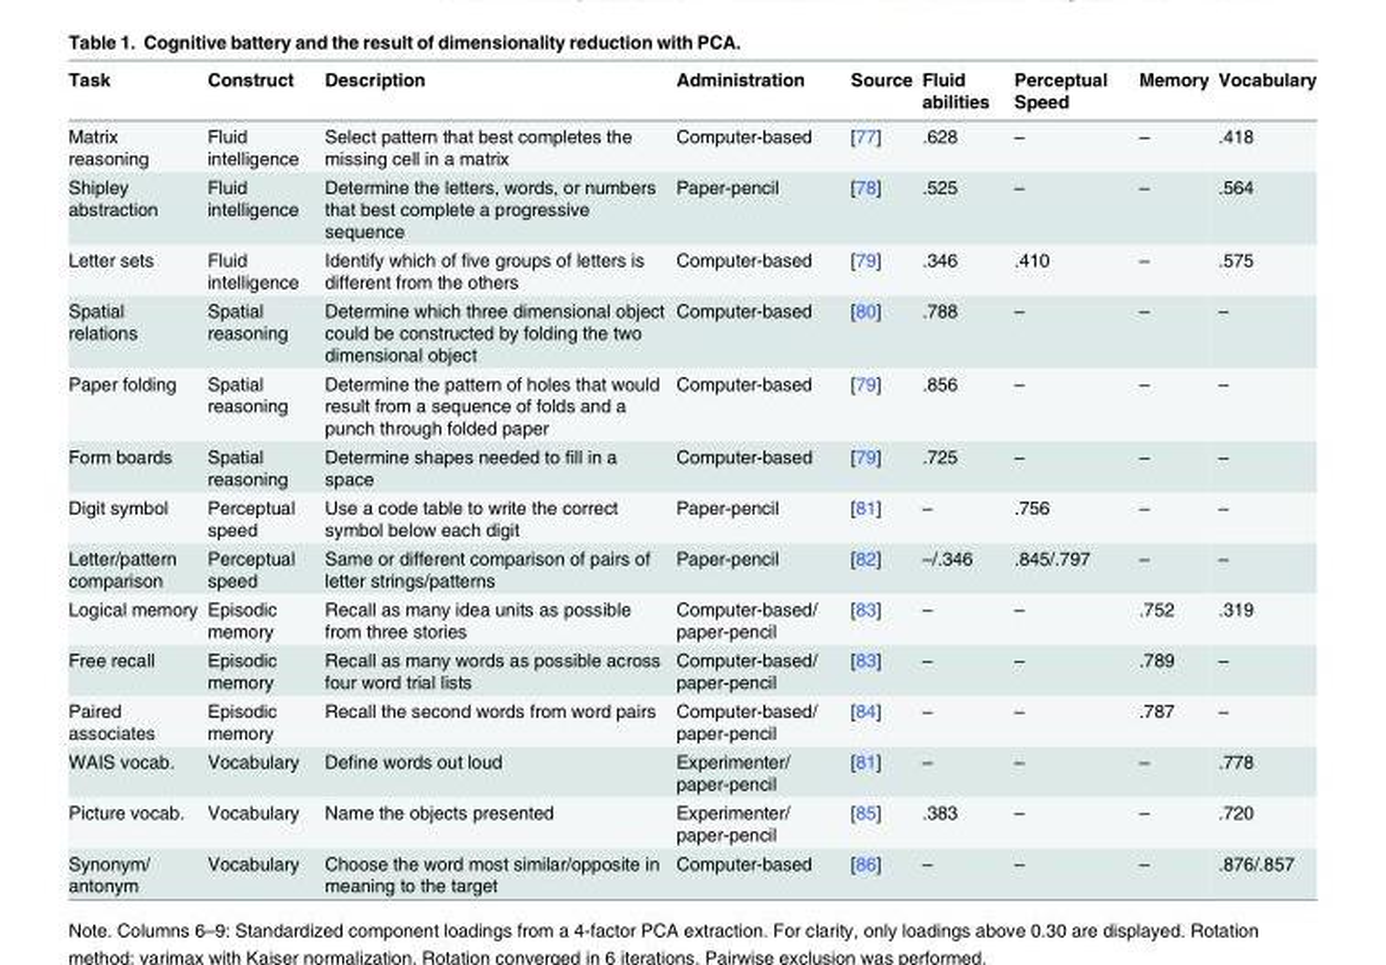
<table><thead><tr><td>Task</td><td>Construct</td><td>Description</td><td>Administration</td><td>Source</td><td>Fluid abilities</td><td>Perceptual Speed</td><td>Memory</td><td>Vocabulary</td></tr></thead><tbody><tr><td>Matrix reasoning</td><td>Fluid intelligence</td><td>Select pattern that best completes the missing cell in a matrix</td><td>Computer-based</td><td>[77]</td><td>.628</td><td>–</td><td>–</td><td>.418</td></tr><tr><td>Shipley abstraction</td><td>Fluid intelligence</td><td>Determine the letters, words, or numbers that best complete a progressive sequence</td><td>Paper-pencil</td><td>[78]</td><td>.525</td><td>–</td><td>–</td><td>.564</td></tr><tr><td>Letter sets</td><td>Fluid intelligence</td><td>Identify which of five groups of letters is different from the others</td><td>Computer-based</td><td>[79]</td><td>.346</td><td>.410</td><td>–</td><td>.575</td></tr><tr><td>Spatial relations</td><td>Spatial reasoning</td><td>Determine which three dimensional object could be constructed by folding the two dimensional object</td><td>Computer-based</td><td>[80]</td><td>.788</td><td>–</td><td>–</td><td>–</td></tr><tr><td>Paper folding</td><td>Spatial reasoning</td><td>Determine the pattern of holes that would result from a sequence of folds and a punch through folded paper</td><td>Computer-based</td><td>[79]</td><td>.856</td><td>–</td><td>–</td><td>–</td></tr><tr><td>Form boards</td><td>Spatial reasoning</td><td>Determine shapes needed to fill in a space</td><td>Computer-based</td><td>[79]</td><td>.725</td><td>–</td><td>–</td><td>–</td></tr><tr><td>Digit symbol</td><td>Perceptual speed</td><td>Use a code table to write the correct symbol below each digit</td><td>Paper-pencil</td><td>[81]</td><td>–</td><td>.756</td><td>–</td><td>–</td></tr><tr><td>Letter/pattern comparison</td><td>Perceptual speed</td><td>Same or different comparison of pairs of letter strings/patterns</td><td>Paper-pencil</td><td>[82]</td><td>–/.346</td><td>.845/.797</td><td>–</td><td>–</td></tr><tr><td>Logical memory</td><td>Episodic memory</td><td>Recall as many idea units as possible from three stories</td><td>Computer-based/ paper-pencil</td><td>[83]</td><td>–</td><td>–</td><td>.752</td><td>.319</td></tr><tr><td>Free recall</td><td>Episodic memory</td><td>Recall as many words as possible across four word trial lists</td><td>Computer-based/ paper-pencil</td><td>[83]</td><td>–</td><td>–</td><td>.789</td><td>–</td></tr><tr><td>Paired associates</td><td>Episodic memory</td><td>Recall the second words from word pairs</td><td>Computer-based/ paper-pencil</td><td>[84]</td><td>–</td><td>–</td><td>.787</td><td>–</td></tr><tr><td>WAIS vocab.</td><td>Vocabulary</td><td>Define words out loud</td><td>Experimenter/ paper-pencil</td><td>[81]</td><td>–</td><td>–</td><td>–</td><td>.778</td></tr><tr><td>Picture vocab.</td><td>Vocabulary</td><td>Name the objects presented</td><td>Experimenter/ paper-pencil</td><td>[85]</td><td>.383</td><td>–</td><td>–</td><td>.720</td></tr><tr><td>Synonym/ antonym</td><td>Vocabulary</td><td>Choose the word most similar/opposite in meaning to the target</td><td>Computer-based</td><td>[86]</td><td>–</td><td>–</td><td>–</td><td>.876/.857</td></tr></tbody></table>